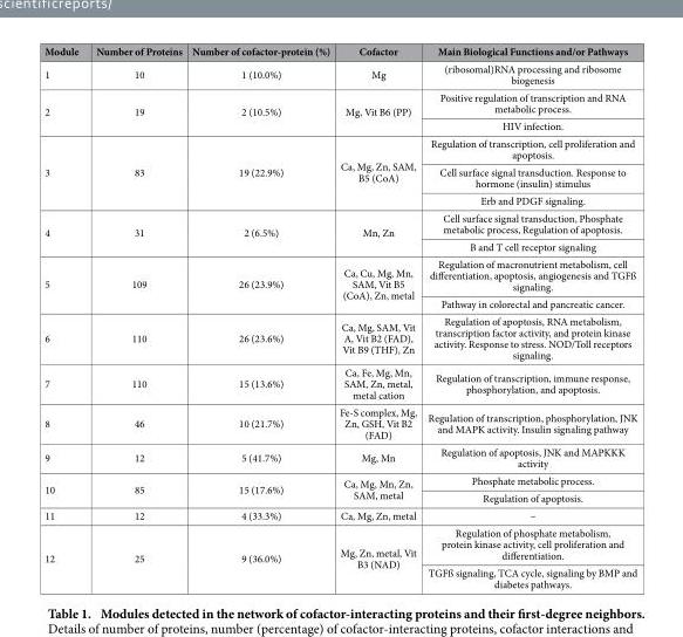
<table><thead><tr><td>Module</td><td>Number of Proteins</td><td>Number of cofactor-protein (%)</td><td>Cofactor</td><td>Main Biological Functions and/or Pathways</td></tr></thead><tbody><tr><td>1</td><td>10</td><td>1 (10.0%)</td><td>Mg</td><td>(ribosomal)RNA processing and ribosome biogenesis</td></tr><tr><td rowspan="2">2</td><td rowspan="2">19</td><td rowspan="2">2 (10.5%)</td><td rowspan="2">Mg, Vit B6 (PP)</td><td>Positive regulation of transcription and RNA metabolic process.</td></tr><tr><td>HIV infection.</td></tr><tr><td rowspan="3">3</td><td rowspan="3">83</td><td rowspan="3">19 (22.9%)</td><td rowspan="3">Ca, Mg, Zn, SAM, B5 (CoA)</td><td>Regulation of transcription, cell proliferation and apoptosis.</td></tr><tr><td>Cell surface signal transduction. Response to hormone (insulin) stimulus</td></tr><tr><td>Erb and PDGF signaling.</td></tr><tr><td rowspan="2">4</td><td rowspan="2">31</td><td rowspan="2">2 (6.5%)</td><td rowspan="2">Mn, Zn</td><td>Cell surface signal transduction, Phosphate metabolic process, Regulation of apoptosis.</td></tr><tr><td>B and T cell receptor signaling</td></tr><tr><td rowspan="2">5</td><td rowspan="2">109</td><td rowspan="2">26 (23.9%)</td><td rowspan="2">Ca, Cu, Mg, Mn, SAM, Vit B5 (CoA), Zn, metal</td><td>Regulation of macronutrient metabolism, cell differentiation, apoptosis, angiogenesis and TGFß signaling.</td></tr><tr><td>Pathway in colorectal and pancreatic cancer.</td></tr><tr><td>6</td><td>110</td><td>26 (23.6%)</td><td>Ca, Mg, SAM, Vit A, Vit B2 (FAD), Vit B9 (THF), Zn</td><td>Regulation of apoptosis, RNA metabolism, transcription factor activity, and protein kinase activity. Response to stress. NOD/Toll receptors signaling.</td></tr><tr><td>7</td><td>110</td><td>15 (13.6%)</td><td>Ca, Fe, Mg, Mn, SAM, Zn, metal, metal cation</td><td>Regulation of transcription, immune response, phosphorylation, and apoptosis.</td></tr><tr><td>8</td><td>46</td><td>10 (21.7%)</td><td>Fe-S complex, Mg, Zn, GSH, Vit B2 (FAD)</td><td>Regulation of transcription, phosphorylation, JNK and MAPK activity. Insulin signaling pathway</td></tr><tr><td>9</td><td>12</td><td>5 (41.7%)</td><td>Mg, Mn</td><td>Regulation of apoptosis, JNK and MAPKKK activity</td></tr><tr><td rowspan="2">10</td><td rowspan="2">85</td><td rowspan="2">15 (17.6%)</td><td rowspan="2">Ca, Mg, Mn, Zn, SAM, metal</td><td>Phosphate metabolic process.</td></tr><tr><td>Regulation of apoptosis.</td></tr><tr><td>11</td><td>12</td><td>4 (33.3%)</td><td>Ca, Mg, Zn, metal</td><td>–</td></tr><tr><td rowspan="2">12</td><td rowspan="2">25</td><td rowspan="2">9 (36.0%)</td><td rowspan="2">Mg, Zn, metal, Vit B3 (NAD)</td><td>Regulation of phosphate metabolism, protein kinase activity, cell proliferation and differentiation.</td></tr><tr><td>TGFß signaling, TCA cycle, signaling by BMP and diabetes pathways.</td></tr></tbody></table>